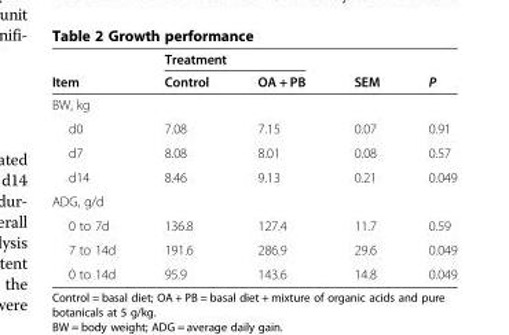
<table><thead><tr><td rowspan="2">Item</td><td colspan="2">Treatment</td><td rowspan="2">SEM</td><td rowspan="2">P</td></tr><tr><td>Control</td><td>OA + PB</td></tr></thead><tbody><tr><td colspan="5">BW, kg</td></tr><tr><td>d0</td><td>7.08</td><td>7.15</td><td>0.07</td><td>0.91</td></tr><tr><td>d7</td><td>8.08</td><td>8.01</td><td>0.08</td><td>0.57</td></tr><tr><td>d14</td><td>8.46</td><td>9.13</td><td>0.21</td><td>0.049</td></tr><tr><td colspan="5">ADG, g/d</td></tr><tr><td>0 to 7d</td><td>136.8</td><td>127.4</td><td>11.7</td><td>0.59</td></tr><tr><td>7 to 14d</td><td>191.6</td><td>286.9</td><td>29.6</td><td>0.049</td></tr><tr><td>0 to 14d</td><td>95.9</td><td>143.6</td><td>14.8</td><td>0.049</td></tr></tbody></table>